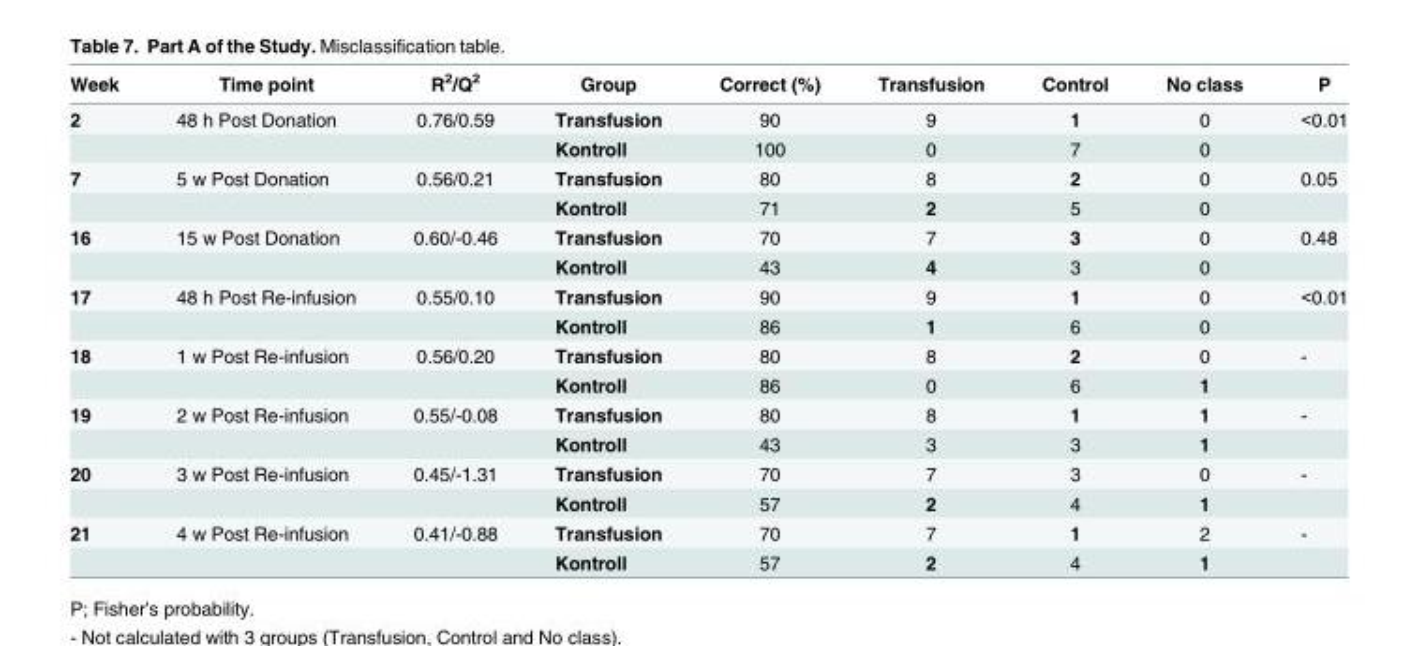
<table><thead><tr><td>Week</td><td>Time point</td><td>R<sup>2</sup>/Q<sup>2</sup></td><td>Group</td><td>Correct (%)</td><td>Transfusion</td><td>Control</td><td>No class</td><td>P</td></tr></thead><tbody><tr><td rowspan="2">2</td><td>48 h Post Donation</td><td>0.76/0.59</td><td>Transfusion</td><td>90</td><td>9</td><td>1</td><td>0</td><td>&lt;0.01</td></tr><tr><td></td><td></td><td>Kontroll</td><td>100</td><td>0</td><td>7</td><td>0</td><td></td></tr><tr><td rowspan="2">7</td><td>5 w Post Donation</td><td>0.56/0.21</td><td>Transfusion</td><td>80</td><td>8</td><td>2</td><td>0</td><td>0.05</td></tr><tr><td></td><td></td><td>Kontroll</td><td>71</td><td>2</td><td>5</td><td>0</td><td></td></tr><tr><td rowspan="2">16</td><td>15 w Post Donation</td><td>0.60/-0.46</td><td>Transfusion</td><td>70</td><td>7</td><td>3</td><td>0</td><td>0.48</td></tr><tr><td></td><td></td><td>Kontroll</td><td>43</td><td>4</td><td>3</td><td>0</td><td></td></tr><tr><td rowspan="2">17</td><td>48 h Post Re-infusion</td><td>0.55/0.10</td><td>Transfusion</td><td>90</td><td>9</td><td>1</td><td>0</td><td>&lt;0.01</td></tr><tr><td></td><td></td><td>Kontroll</td><td>86</td><td>1</td><td>6</td><td>0</td><td></td></tr><tr><td rowspan="2">18</td><td>1 w Post Re-infusion</td><td>0.56/0.20</td><td>Transfusion</td><td>80</td><td>8</td><td>2</td><td>0</td><td>-</td></tr><tr><td></td><td></td><td>Kontroll</td><td>86</td><td>0</td><td>6</td><td>1</td><td></td></tr><tr><td rowspan="2">19</td><td>2 w Post Re-infusion</td><td>0.55/-0.08</td><td>Transfusion</td><td>80</td><td>8</td><td>1</td><td>1</td><td>-</td></tr><tr><td></td><td></td><td>Kontroll</td><td>43</td><td>3</td><td>3</td><td>1</td><td></td></tr><tr><td rowspan="2">20</td><td>3 w Post Re-infusion</td><td>0.45/-1.31</td><td>Transfusion</td><td>70</td><td>7</td><td>3</td><td>0</td><td>-</td></tr><tr><td></td><td></td><td>Kontroll</td><td>57</td><td>2</td><td>4</td><td>1</td><td></td></tr><tr><td rowspan="2">21</td><td>4 w Post Re-infusion</td><td>0.41/-0.88</td><td>Transfusion</td><td>70</td><td>7</td><td>1</td><td>2</td><td>-</td></tr><tr><td></td><td></td><td>Kontroll</td><td>57</td><td>2</td><td>4</td><td>1</td><td></td></tr></tbody></table>